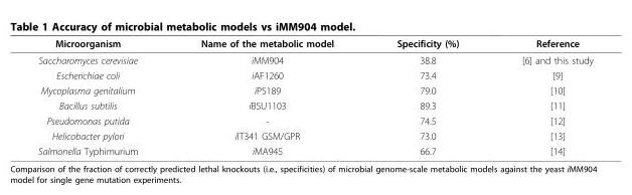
<table><thead><tr><td>Microorganism</td><td>Name of the metabolic model</td><td>Specificity (%)</td><td>Reference</td></tr></thead><tbody><tr><td>Saccharomyces cerevisiae</td><td>iMM904</td><td>38.8</td><td>[6] and this study</td></tr><tr><td>Escherichiae coli</td><td>iAF1260</td><td>73.4</td><td>[9]</td></tr><tr><td>Mycoplasma genitalium</td><td>iPS189</td><td>79.0</td><td>[10]</td></tr><tr><td>Bacillus subtilis</td><td>iBSU1103</td><td>89.3</td><td>[11]</td></tr><tr><td>Pseudomonas putida</td><td>-</td><td>74.5</td><td>[12]</td></tr><tr><td>Helicobacter pylori</td><td>iIT341 GSM/GPR</td><td>73.0</td><td>[13]</td></tr><tr><td>Salmonella Typhimurium</td><td>iMA945</td><td>66.7</td><td>[14]</td></tr></tbody></table>